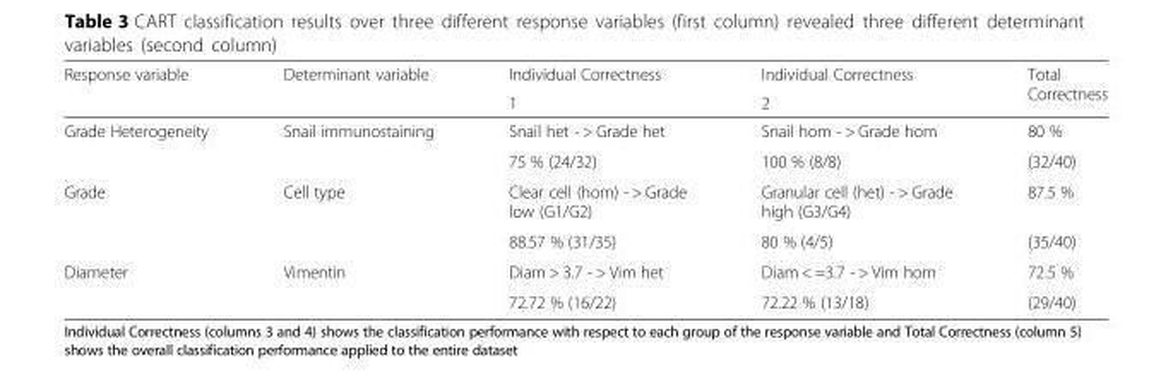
<table><thead><tr><td rowspan="2">Response variable</td><td rowspan="2">Determinant variable</td><td rowspan="2">Individual Correctness 1</td><td rowspan="2">Individual Correctness 2</td><td rowspan="2">Total Correctness</td></tr><tr></tr></thead><tbody><tr><td rowspan="2">Grade Heterogeneity</td><td rowspan="2">Snail immunostaining</td><td>Snail het - &gt; Grade het</td><td>Snail hom - &gt; Grade hom</td><td>80 %</td></tr><tr><td>75 % (24/32)</td><td>100 % (8/8)</td><td>(32/40)</td></tr><tr><td rowspan="2">Grade</td><td rowspan="2">Cell type</td><td>Clear cell (hom) - &gt; Grade low (G1/G2)</td><td>Granular cell (het) - &gt; Grade high (G3/G4)</td><td>87.5 %</td></tr><tr><td>88.57 % (31/35)</td><td>80 % (4/5)</td><td>(35/40)</td></tr><tr><td rowspan="2">Diameter</td><td rowspan="2">Vimentin</td><td>Diam &gt; 3.7 - &gt; Vim het</td><td>Diam &lt; =3.7 - &gt; Vim hom</td><td>72.5 %</td></tr><tr><td>72.72 % (16/22)</td><td>72.22 % (13/18)</td><td>(29/40)</td></tr></tbody></table>